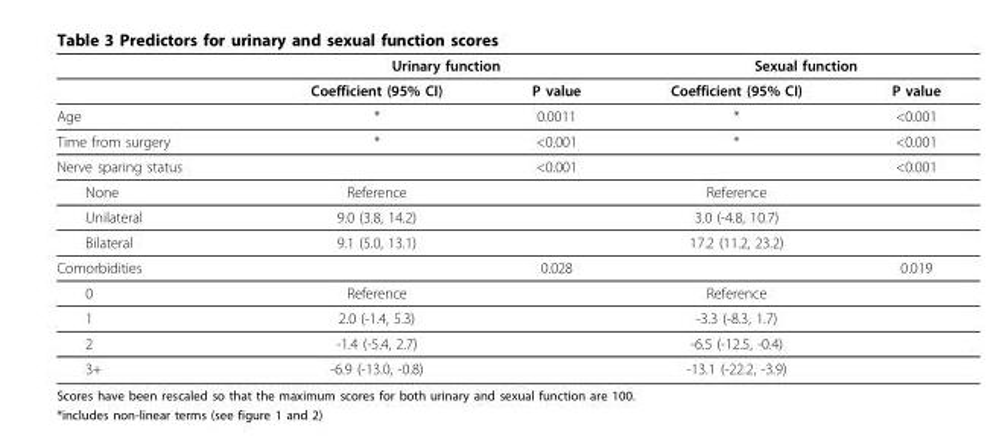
<table><thead><tr><td rowspan="2"></td><td colspan="2">Urinary function</td><td colspan="2">Sexual function</td></tr><tr><td>Coefficient (95% CI)</td><td>P value</td><td>Coefficient (95% CI)</td><td>P value</td></tr></thead><tbody><tr><td>Age</td><td>*</td><td>0.0011</td><td>*</td><td>&lt;0.001</td></tr><tr><td>Time from surgery</td><td>*</td><td>&lt;0.001</td><td>*</td><td>&lt;0.001</td></tr><tr><td>Nerve sparing status</td><td></td><td>&lt;0.001</td><td></td><td>&lt;0.001</td></tr><tr><td>None</td><td>Reference</td><td></td><td>Reference</td><td></td></tr><tr><td>Unilateral</td><td>9.0 (3.8, 14.2)</td><td></td><td>3.0 (-4.8, 10.7)</td><td></td></tr><tr><td>Bilateral</td><td>9.1 (5.0, 13.1)</td><td></td><td>17.2 (11.2, 23.2)</td><td></td></tr><tr><td>Comorbidities</td><td></td><td>0.028</td><td></td><td>0.019</td></tr><tr><td>0</td><td>Reference</td><td></td><td>Reference</td><td></td></tr><tr><td>1</td><td>2.0 (-1.4, 5.3)</td><td></td><td>-3.3 (-8.3, 1.7)</td><td></td></tr><tr><td>2</td><td>-1.4 (-5.4, 2.7)</td><td></td><td>-6.5 (-12.5, -0.4)</td><td></td></tr><tr><td>3+</td><td>-6.9 (-13.0, -0.8)</td><td></td><td>-13.1 (-22.2, -3.9)</td><td></td></tr></tbody></table>